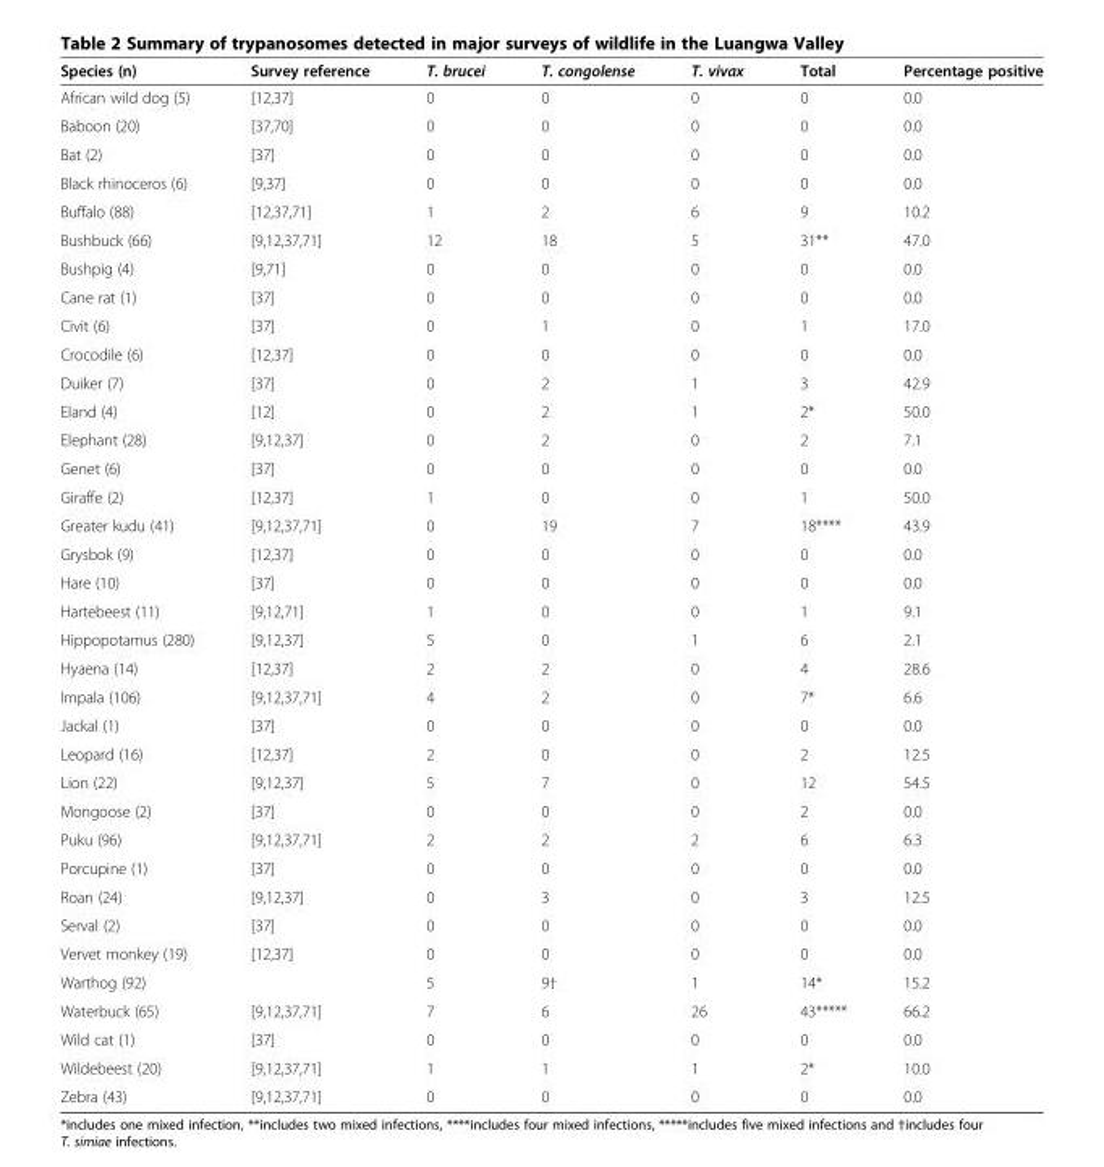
<table><thead><tr><td>Species (n)</td><td>Survey reference</td><td>T. brucei</td><td>T. congolense</td><td>T. vivax</td><td>Total</td><td>Percentage positive</td></tr></thead><tbody><tr><td>African wild dog (5)</td><td>[12,37]</td><td>0</td><td>0</td><td>0</td><td>0</td><td>0.0</td></tr><tr><td>Baboon (20)</td><td>[37,70]</td><td>0</td><td>0</td><td>0</td><td>0</td><td>0.0</td></tr><tr><td>Bat (2)</td><td>[37]</td><td>0</td><td>0</td><td>0</td><td>0</td><td>0.0</td></tr><tr><td>Black rhinoceros (6)</td><td>[9,37]</td><td>0</td><td>0</td><td>0</td><td>0</td><td>0.0</td></tr><tr><td>Buffalo (88)</td><td>[12,37,71]</td><td>1</td><td>2</td><td>6</td><td>9</td><td>10.2</td></tr><tr><td>Bushbuck (66)</td><td>[9,12,37,71]</td><td>12</td><td>18</td><td>5</td><td>31**</td><td>47.0</td></tr><tr><td>Bushpig (4)</td><td>[9,71]</td><td>0</td><td>0</td><td>0</td><td>0</td><td>0.0</td></tr><tr><td>Cane rat (1)</td><td>[37]</td><td>0</td><td>0</td><td>0</td><td>0</td><td>0.0</td></tr><tr><td>Civit (6)</td><td>[37]</td><td>0</td><td>1</td><td>0</td><td>1</td><td>17.0</td></tr><tr><td>Crocodile (6)</td><td>[12,37]</td><td>0</td><td>0</td><td>0</td><td>0</td><td>0.0</td></tr><tr><td>Duiker (7)</td><td>[37]</td><td>0</td><td>2</td><td>1</td><td>3</td><td>42.9</td></tr><tr><td>Eland (4)</td><td>[12]</td><td>0</td><td>2</td><td>1</td><td>2*</td><td>50.0</td></tr><tr><td>Elephant (28)</td><td>[9,12,37]</td><td>0</td><td>2</td><td>0</td><td>2</td><td>7.1</td></tr><tr><td>Genet (6)</td><td>[37]</td><td>0</td><td>0</td><td>0</td><td>0</td><td>0.0</td></tr><tr><td>Giraffe (2)</td><td>[12,37]</td><td>1</td><td>0</td><td>0</td><td>1</td><td>50.0</td></tr><tr><td>Greater kudu (41)</td><td>[9,12,37,71]</td><td>0</td><td>19</td><td>7</td><td>18****</td><td>43.9</td></tr><tr><td>Grysbok (9)</td><td>[12,37]</td><td>0</td><td>0</td><td>0</td><td>0</td><td>0.0</td></tr><tr><td>Hare (10)</td><td>[37]</td><td>0</td><td>0</td><td>0</td><td>0</td><td>0.0</td></tr><tr><td>Hartebeest (11)</td><td>[9,12,71]</td><td>1</td><td>0</td><td>0</td><td>1</td><td>9.1</td></tr><tr><td>Hippopotamus (280)</td><td>[9,12,37]</td><td>5</td><td>0</td><td>1</td><td>6</td><td>2.1</td></tr><tr><td>Hyaena (14)</td><td>[12,37]</td><td>2</td><td>2</td><td>0</td><td>4</td><td>28.6</td></tr><tr><td>Impala (106)</td><td>[9,12,37,71]</td><td>4</td><td>2</td><td>0</td><td>7*</td><td>6.6</td></tr><tr><td>Jackal (1)</td><td>[37]</td><td>0</td><td>0</td><td>0</td><td>0</td><td>0.0</td></tr><tr><td>Leopard (16)</td><td>[12,37]</td><td>2</td><td>0</td><td>0</td><td>2</td><td>12.5</td></tr><tr><td>Lion (22)</td><td>[9,12,37]</td><td>5</td><td>7</td><td>0</td><td>12</td><td>54.5</td></tr><tr><td>Mongoose (2)</td><td>[37]</td><td>0</td><td>0</td><td>0</td><td>2</td><td>0.0</td></tr><tr><td>Puku (96)</td><td>[9,12,37,71]</td><td>2</td><td>2</td><td>2</td><td>6</td><td>6.3</td></tr><tr><td>Porcupine (1)</td><td>[37]</td><td>0</td><td>0</td><td>0</td><td>0</td><td>0.0</td></tr><tr><td>Roan (24)</td><td>[9,12,37]</td><td>0</td><td>3</td><td>0</td><td>3</td><td>12.5</td></tr><tr><td>Serval (2)</td><td>[37]</td><td>0</td><td>0</td><td>0</td><td>0</td><td>0.0</td></tr><tr><td>Vervet monkey (19)</td><td>[12,37]</td><td>0</td><td>0</td><td>0</td><td>0</td><td>0.0</td></tr><tr><td>Warthog (92)</td><td></td><td>5</td><td>9†</td><td>1</td><td>14*</td><td>15.2</td></tr><tr><td>Waterbuck (65)</td><td>[9,12,37,71]</td><td>7</td><td>6</td><td>26</td><td>43*****</td><td>66.2</td></tr><tr><td>Wild cat (1)</td><td>[37]</td><td>0</td><td>0</td><td>0</td><td>0</td><td>0.0</td></tr><tr><td>Wildebeest (20)</td><td>[9,12,37,71]</td><td>1</td><td>1</td><td>1</td><td>2*</td><td>10.0</td></tr><tr><td>Zebra (43)</td><td>[9,12,37,71]</td><td>0</td><td>0</td><td>0</td><td>0</td><td>0.0</td></tr></tbody></table>